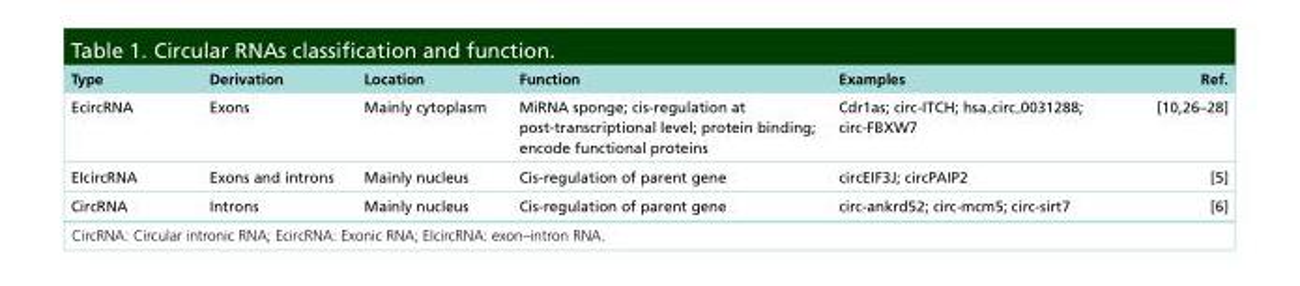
<table><thead><tr><td>Type</td><td>Derivation</td><td>Location</td><td>Function</td><td>Examples</td><td>Ref.</td></tr></thead><tbody><tr><td>EcircRNA</td><td>Exons</td><td>Mainly cytoplasm</td><td>MiRNA sponge; cis-regulation at post-transcriptional level; protein binding; encode functional proteins</td><td>Cdr1as; circ-ITCH; hsa <sub>circ</sub> 0031288; circ-FBXW7</td><td>[10,26–28]</td></tr><tr><td>EIcircRNA</td><td>Exons and introns</td><td>Mainly nucleus</td><td>Cis-regulation of parent gene</td><td>circEIF3J; circPAIP2</td><td>[5]</td></tr><tr><td>CircRNA</td><td>Introns</td><td>Mainly nucleus</td><td>Cis-regulation of parent gene</td><td>circ-ankrd52; circ-mcm5; circ-sirt7</td><td>[6]</td></tr></tbody></table>